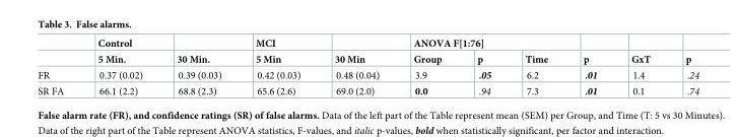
<table><thead><tr><td rowspan="2"></td><td rowspan="2">Control 5 Min.</td><td rowspan="2">30 Min.</td><td rowspan="2">MCI 5 Min</td><td rowspan="2">30 Min</td><td colspan="3">ANOVA F[1:76]</td><td rowspan="2">p</td><td rowspan="2">GxT</td><td rowspan="2">p</td></tr><tr><td>Group</td><td>p</td><td>Time</td></tr></thead><tbody><tr><td>FR</td><td>0.37 (0.02)</td><td>0.39 (0.03)</td><td>0.42 (0.03)</td><td>0.48 (0.04)</td><td>3.9</td><td>.05</td><td>6.2</td><td>.01</td><td>1.4</td><td>.24</td></tr><tr><td>SR FA</td><td>66.1 (2.2)</td><td>68.8 (2.3)</td><td>65.6 (2.6)</td><td>69.0 (2.0)</td><td>0.0</td><td>.94</td><td>7.3</td><td>.01</td><td>0.1</td><td>.74</td></tr></tbody></table>